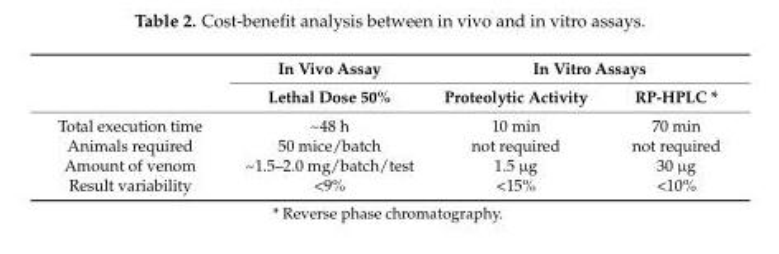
<table><thead><tr><td rowspan="2"></td><td rowspan="2">In Vivo Assay Lethal Dose 50%</td><td colspan="2">In Vitro Assays</td></tr><tr><td>Proteolytic Activity</td><td>RP-HPLC *</td></tr></thead><tbody><tr><td>Total execution time</td><td>~48 h</td><td>10 min</td><td>70 min</td></tr><tr><td>Animals required</td><td>50 mice/batch</td><td>not required</td><td>not required</td></tr><tr><td>Amount of venom</td><td>~1.5–2.0 mg/batch/test</td><td>1.5 µg</td><td>30 µg</td></tr><tr><td>Result variability</td><td>&lt;9%</td><td>&lt;15%</td><td>&lt;10%</td></tr></tbody></table>